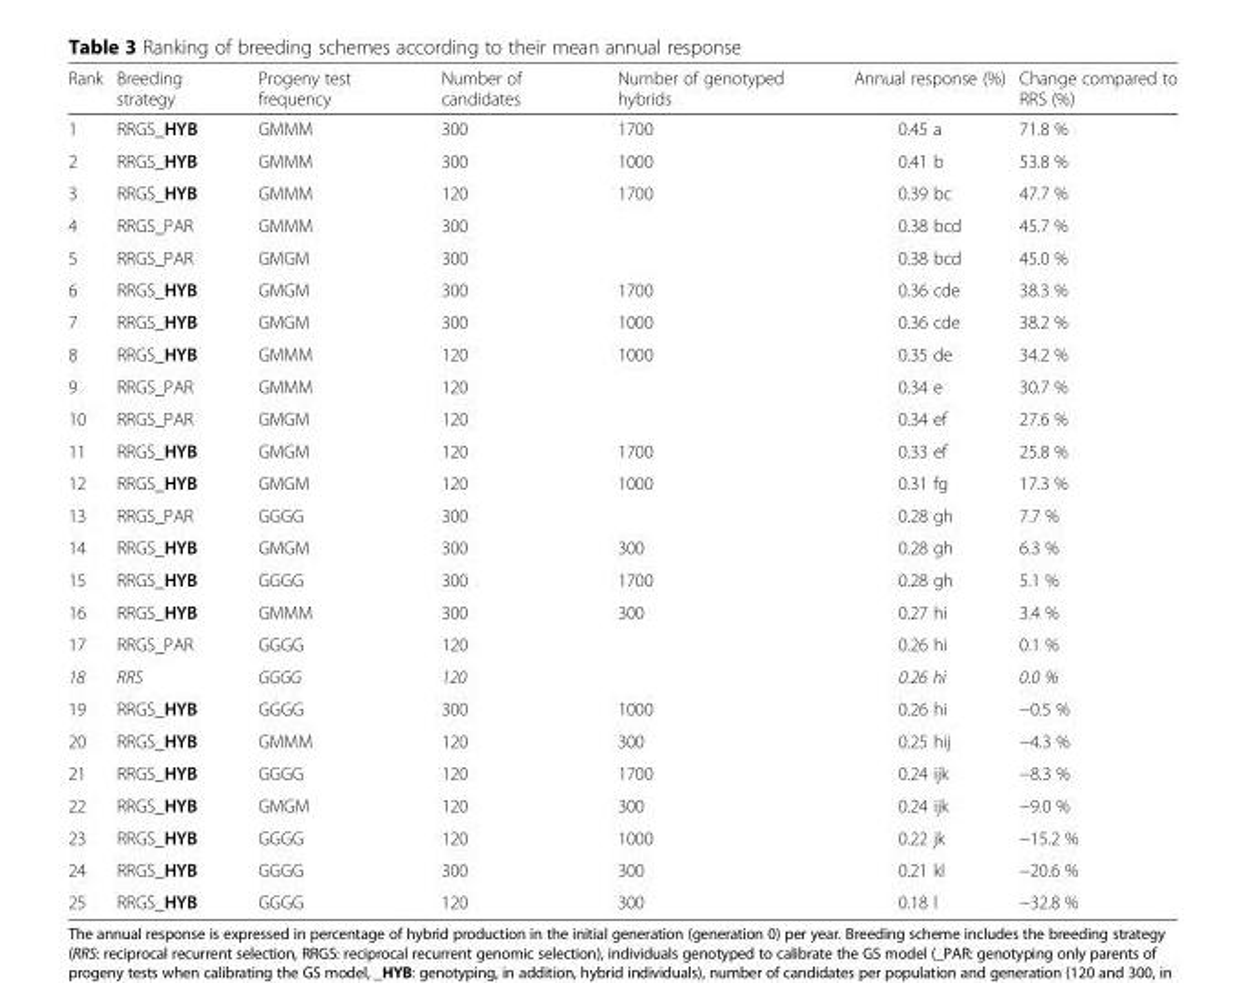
<table><thead><tr><td>Rank</td><td>Breeding strategy</td><td>Progeny test frequency</td><td>Number of candidates</td><td>Number of genotyped hybrids</td><td>Annual response (%)</td><td>Change compared to RRS (%)</td></tr></thead><tbody><tr><td>1</td><td>RRGS_HYB</td><td>GMMM</td><td>300</td><td>1700</td><td>0.45 a</td><td>71.8 %</td></tr><tr><td>2</td><td>RRGS_HYB</td><td>GMMM</td><td>300</td><td>1000</td><td>0.41 b</td><td>53.8 %</td></tr><tr><td>3</td><td>RRGS_HYB</td><td>GMMM</td><td>120</td><td>1700</td><td>0.39 bc</td><td>47.7 %</td></tr><tr><td>4</td><td>RRGS_PAR</td><td>GMMM</td><td>300</td><td></td><td>0.38 bcd</td><td>45.7 %</td></tr><tr><td>5</td><td>RRGS_PAR</td><td>GMGM</td><td>300</td><td></td><td>0.38 bcd</td><td>45.0 %</td></tr><tr><td>6</td><td>RRGS_HYB</td><td>GMGM</td><td>300</td><td>1700</td><td>0.36 cde</td><td>38.3 %</td></tr><tr><td>7</td><td>RRGS_HYB</td><td>GMGM</td><td>300</td><td>1000</td><td>0.36 cde</td><td>38.2 %</td></tr><tr><td>8</td><td>RRGS_HYB</td><td>GMMM</td><td>120</td><td>1000</td><td>0.35 de</td><td>34.2 %</td></tr><tr><td>9</td><td>RRGS_PAR</td><td>GMMM</td><td>120</td><td></td><td>0.34 e</td><td>30.7 %</td></tr><tr><td>10</td><td>RRGS_PAR</td><td>GMGM</td><td>120</td><td></td><td>0.34 ef</td><td>27.6 %</td></tr><tr><td>11</td><td>RRGS_HYB</td><td>GMGM</td><td>120</td><td>1700</td><td>0.33 ef</td><td>25.8 %</td></tr><tr><td>12</td><td>RRGS_HYB</td><td>GMGM</td><td>120</td><td>1000</td><td>0.31 fg</td><td>17.3 %</td></tr><tr><td>13</td><td>RRGS_PAR</td><td>GGGG</td><td>300</td><td></td><td>0.28 gh</td><td>7.7 %</td></tr><tr><td>14</td><td>RRGS_HYB</td><td>GMGM</td><td>300</td><td>300</td><td>0.28 gh</td><td>6.3 %</td></tr><tr><td>15</td><td>RRGS_HYB</td><td>GGGG</td><td>300</td><td>1700</td><td>0.28 gh</td><td>5.1 %</td></tr><tr><td>16</td><td>RRGS_HYB</td><td>GMMM</td><td>300</td><td>300</td><td>0.27 hi</td><td>3.4 %</td></tr><tr><td>17</td><td>RRGS_PAR</td><td>GGGG</td><td>120</td><td></td><td>0.26 hi</td><td>0.1 %</td></tr><tr><td>18</td><td>RRS</td><td>GGGG</td><td>120</td><td></td><td>0.26 hi</td><td>0.0 %</td></tr><tr><td>19</td><td>RRGS_HYB</td><td>GGGG</td><td>300</td><td>1000</td><td>0.26 hi</td><td>−0.5 %</td></tr><tr><td>20</td><td>RRGS_HYB</td><td>GMMM</td><td>120</td><td>300</td><td>0.25 hij</td><td>−4.3 %</td></tr><tr><td>21</td><td>RRGS_HYB</td><td>GGGG</td><td>120</td><td>1700</td><td>0.24 ijk</td><td>−8.3 %</td></tr><tr><td>22</td><td>RRGS_HYB</td><td>GMGM</td><td>120</td><td>300</td><td>0.24 ijk</td><td>−9.0 %</td></tr><tr><td>23</td><td>RRGS_HYB</td><td>GGGG</td><td>120</td><td>1000</td><td>0.22 jk</td><td>−15.2 %</td></tr><tr><td>24</td><td>RRGS_HYB</td><td>GGGG</td><td>300</td><td>300</td><td>0.21 kl</td><td>−20.6 %</td></tr><tr><td>25</td><td>RRGS_HYB</td><td>GGGG</td><td>120</td><td>300</td><td>0.18 l</td><td>−32.8 %</td></tr></tbody></table>